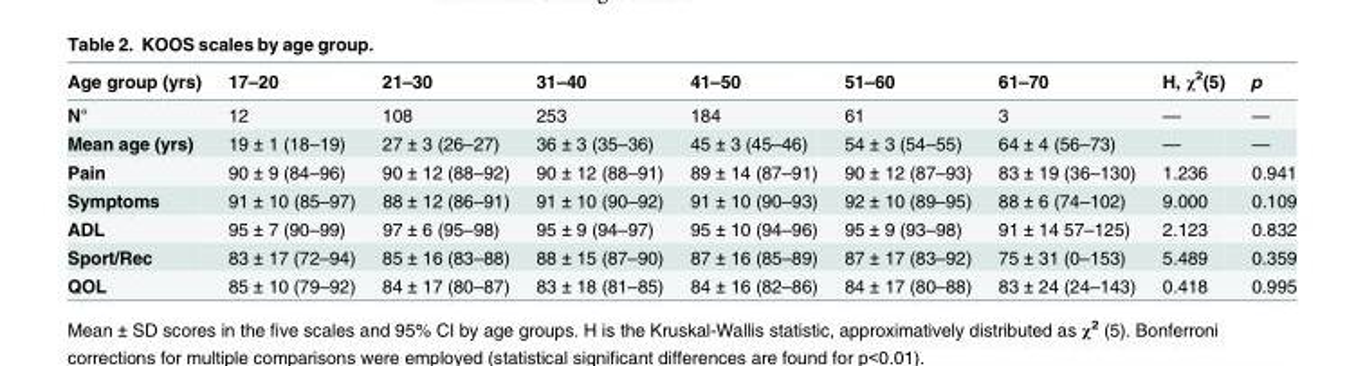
<table><thead><tr><td>Age group (yrs)</td><td>17–20</td><td>21–30</td><td>31–40</td><td>41–50</td><td>51–60</td><td>61–70</td><td>H, χ<sup>2</sup>(5)</td><td>p</td></tr></thead><tbody><tr><td>N°</td><td>12</td><td>108</td><td>253</td><td>184</td><td>61</td><td>3</td><td>—</td><td>—</td></tr><tr><td>Mean age (yrs)</td><td>19 ± 1 (18–19)</td><td>27 ± 3 (26–27)</td><td>36 ± 3 (35–36)</td><td>45 ± 3 (45–46)</td><td>54 ± 3 (54–55)</td><td>64 ± 4 (56–73)</td><td>—</td><td>—</td></tr><tr><td>Pain</td><td>90 ± 9 (84–96)</td><td>90 ± 12 (88–92)</td><td>90 ± 12 (88–91)</td><td>89 ± 14 (87–91)</td><td>90 ± 12 (87–93)</td><td>83 ± 19 (36–130)</td><td>1.236</td><td>0.941</td></tr><tr><td>Symptoms</td><td>91 ± 10 (85–97)</td><td>88 ± 12 (86–91)</td><td>91 ± 10 (90–92)</td><td>91 ± 10 (90–93)</td><td>92 ± 10 (89–95)</td><td>88 ± 6 (74–102)</td><td>9.000</td><td>0.109</td></tr><tr><td>ADL</td><td>95 ± 7 (90–99)</td><td>97 ± 6 (95–98)</td><td>95 ± 9 (94–97)</td><td>95 ± 10 (94–96)</td><td>95 ± 9 (93–98)</td><td>91 ± 14 57–125)</td><td>2.123</td><td>0.832</td></tr><tr><td>Sport/Rec</td><td>83 ± 17 (72–94)</td><td>85 ± 16 (83–88)</td><td>88 ± 15 (87–90)</td><td>87 ± 16 (85–89)</td><td>87 ± 17 (83–92)</td><td>75 ± 31 (0–153)</td><td>5.489</td><td>0.359</td></tr><tr><td>QOL</td><td>85 ± 10 (79–92)</td><td>84 ± 17 (80–87)</td><td>83 ± 18 (81–85)</td><td>84 ± 16 (82–86)</td><td>84 ± 17 (80–88)</td><td>83 ± 24 (24–143)</td><td>0.418</td><td>0.995</td></tr></tbody></table>